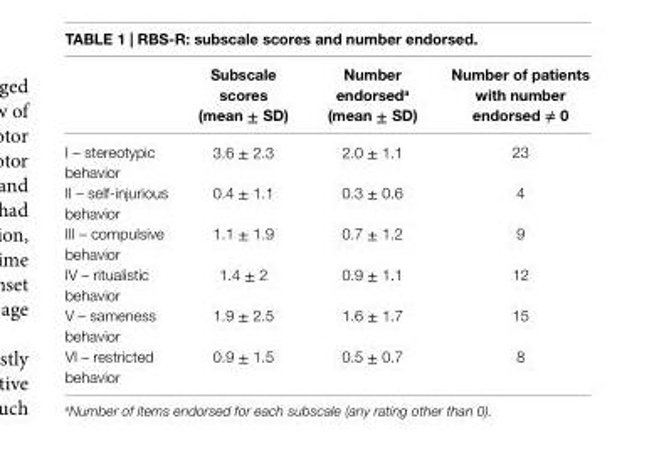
<table><thead><tr><td></td><td>subscale scores (mean ± sD)</td><td>number endorsed<sup>a</sup> (mean ± sD)</td><td>number of patients with number endorsed ≠ 0</td></tr></thead><tbody><tr><td>I – stereotypic behavior</td><td>3.6 ± 2.3</td><td>2.0 ± 1.1</td><td>23</td></tr><tr><td>II – self-injurious behavior</td><td>0.4 ± 1.1</td><td>0.3 ± 0.6</td><td>4</td></tr><tr><td>III – compulsive behavior</td><td>1.1 ± 1.9</td><td>0.7 ± 1.2</td><td>9</td></tr><tr><td>IV – ritualistic behavior</td><td>1.4 ± 2</td><td>0.9 ± 1.1</td><td>12</td></tr><tr><td>V – sameness behavior</td><td>1.9 ± 2.5</td><td>1.6 ± 1.7</td><td>15</td></tr><tr><td>VI – restricted behavior</td><td>0.9 ± 1.5</td><td>0.5 ± 0.7</td><td>8</td></tr></tbody></table>